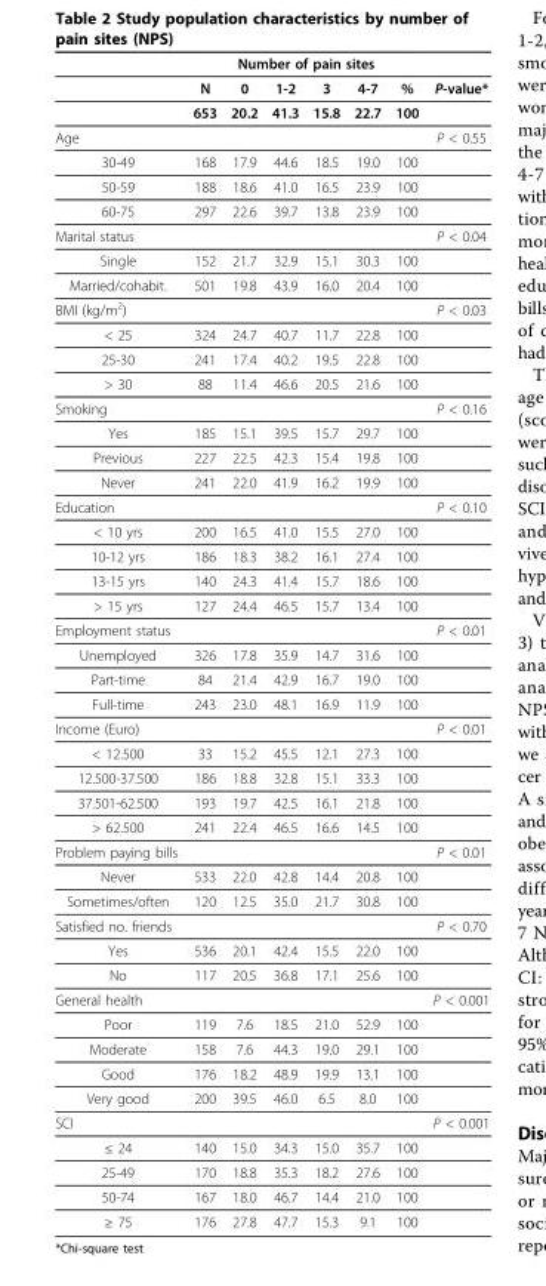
<table><thead><tr><td rowspan="2"></td><td rowspan="2">N</td><td colspan="4">Number of pain sites</td><td rowspan="2">%</td><td rowspan="2">P-value*</td></tr><tr><td>0</td><td>1-2</td><td>3</td><td>4-7</td></tr></thead><tbody><tr><td></td><td>653</td><td>20.2</td><td>41.3</td><td>15.8</td><td>22.7</td><td>100</td><td></td></tr><tr><td>Age</td><td></td><td></td><td></td><td></td><td></td><td></td><td>P &lt; 0.55</td></tr><tr><td>30-49</td><td>168</td><td>17.9</td><td>44.6</td><td>18.5</td><td>19.0</td><td>100</td><td></td></tr><tr><td>50-59</td><td>188</td><td>18.6</td><td>41.0</td><td>16.5</td><td>23.9</td><td>100</td><td></td></tr><tr><td>60-75</td><td>297</td><td>22.6</td><td>39.7</td><td>13.8</td><td>23.9</td><td>100</td><td></td></tr><tr><td>Marital status</td><td></td><td></td><td></td><td></td><td></td><td></td><td>P &lt; 0.04</td></tr><tr><td>Single</td><td>152</td><td>21.7</td><td>32.9</td><td>15.1</td><td>30.3</td><td>100</td><td></td></tr><tr><td>Married/cohabit.</td><td>501</td><td>19.8</td><td>43.9</td><td>16.0</td><td>20.4</td><td>100</td><td></td></tr><tr><td>BMI (kg/m<sup>2</sup>)</td><td></td><td></td><td></td><td></td><td></td><td></td><td>P &lt; 0.03</td></tr><tr><td>&lt; 25</td><td>324</td><td>24.7</td><td>40.7</td><td>11.7</td><td>22.8</td><td>100</td><td></td></tr><tr><td>25-30</td><td>241</td><td>17.4</td><td>40.2</td><td>19.5</td><td>22.8</td><td>100</td><td></td></tr><tr><td>&gt; 30</td><td>88</td><td>11.4</td><td>46.6</td><td>20.5</td><td>21.6</td><td>100</td><td></td></tr><tr><td>Smoking</td><td></td><td></td><td></td><td></td><td></td><td></td><td>P &lt; 0.16</td></tr><tr><td>Yes</td><td>185</td><td>15.1</td><td>39.5</td><td>15.7</td><td>29.7</td><td>100</td><td></td></tr><tr><td>Previous</td><td>227</td><td>22.5</td><td>42.3</td><td>15.4</td><td>19.8</td><td>100</td><td></td></tr><tr><td>Never</td><td>241</td><td>22.0</td><td>41.9</td><td>16.2</td><td>19.9</td><td>100</td><td></td></tr><tr><td>Education</td><td></td><td></td><td></td><td></td><td></td><td></td><td>P &lt; 0.10</td></tr><tr><td>&lt; 10 yrs</td><td>200</td><td>16.5</td><td>41.0</td><td>15.5</td><td>27.0</td><td>100</td><td></td></tr><tr><td>10-12 yrs</td><td>186</td><td>18.3</td><td>38.2</td><td>16.1</td><td>27.4</td><td>100</td><td></td></tr><tr><td>13-15 yrs</td><td>140</td><td>24.3</td><td>41.4</td><td>15.7</td><td>18.6</td><td>100</td><td></td></tr><tr><td>&gt; 15 yrs</td><td>127</td><td>24.4</td><td>46.5</td><td>15.7</td><td>13.4</td><td>100</td><td></td></tr><tr><td>Employment status</td><td></td><td></td><td></td><td></td><td></td><td></td><td>P &lt; 0.01</td></tr><tr><td>Unemployed</td><td>326</td><td>17.8</td><td>35.9</td><td>14.7</td><td>31.6</td><td>100</td><td></td></tr><tr><td>Part-time</td><td>84</td><td>21.4</td><td>42.9</td><td>16.7</td><td>19.0</td><td>100</td><td></td></tr><tr><td>Full-time</td><td>243</td><td>23.0</td><td>48.1</td><td>16.9</td><td>11.9</td><td>100</td><td></td></tr><tr><td>Income (Euro)</td><td></td><td></td><td></td><td></td><td></td><td></td><td>P &lt; 0.01</td></tr><tr><td>&lt; 12.500</td><td>33</td><td>15.2</td><td>45.5</td><td>12.1</td><td>27.3</td><td>100</td><td></td></tr><tr><td>12.500-37.500</td><td>186</td><td>18.8</td><td>32.8</td><td>15.1</td><td>33.3</td><td>100</td><td></td></tr><tr><td>37.501-62.500</td><td>193</td><td>19.7</td><td>42.5</td><td>16.1</td><td>21.8</td><td>100</td><td></td></tr><tr><td>&gt; 62.500</td><td>241</td><td>22.4</td><td>46.5</td><td>16.6</td><td>14.5</td><td>100</td><td></td></tr><tr><td>Problem paying bills</td><td></td><td></td><td></td><td></td><td></td><td></td><td>P &lt; 0.01</td></tr><tr><td>Never</td><td>533</td><td>22.0</td><td>42.8</td><td>14.4</td><td>20.8</td><td>100</td><td></td></tr><tr><td>Sometimes/often</td><td>120</td><td>12.5</td><td>35.0</td><td>21.7</td><td>30.8</td><td>100</td><td></td></tr><tr><td>Satisfied no. friends</td><td></td><td></td><td></td><td></td><td></td><td></td><td>P &lt; 0.70</td></tr><tr><td>Yes</td><td>536</td><td>20.1</td><td>42.4</td><td>15.5</td><td>22.0</td><td>100</td><td></td></tr><tr><td>No</td><td>117</td><td>20.5</td><td>36.8</td><td>17.1</td><td>25.6</td><td>100</td><td></td></tr><tr><td>General health</td><td></td><td></td><td></td><td></td><td></td><td></td><td>P &lt; 0.001</td></tr><tr><td>Poor</td><td>119</td><td>7.6</td><td>18.5</td><td>21.0</td><td>52.9</td><td>100</td><td></td></tr><tr><td>Moderate</td><td>158</td><td>7.6</td><td>44.3</td><td>19.0</td><td>29.1</td><td>100</td><td></td></tr><tr><td>Good</td><td>176</td><td>18.2</td><td>48.9</td><td>19.9</td><td>13.1</td><td>100</td><td></td></tr><tr><td>Very good</td><td>200</td><td>39.5</td><td>46.0</td><td>6.5</td><td>8.0</td><td>100</td><td></td></tr><tr><td>SCI</td><td></td><td></td><td></td><td></td><td></td><td></td><td>P &lt; 0.001</td></tr><tr><td>≤ 24</td><td>140</td><td>15.0</td><td>34.3</td><td>15.0</td><td>35.7</td><td>100</td><td></td></tr><tr><td>25-49</td><td>170</td><td>18.8</td><td>35.3</td><td>18.2</td><td>27.6</td><td>100</td><td></td></tr><tr><td>50-74</td><td>167</td><td>18.0</td><td>46.7</td><td>14.4</td><td>21.0</td><td>100</td><td></td></tr><tr><td>≥ 75</td><td>176</td><td>27.8</td><td>47.7</td><td>15.3</td><td>9.1</td><td>100</td><td></td></tr></tbody></table>